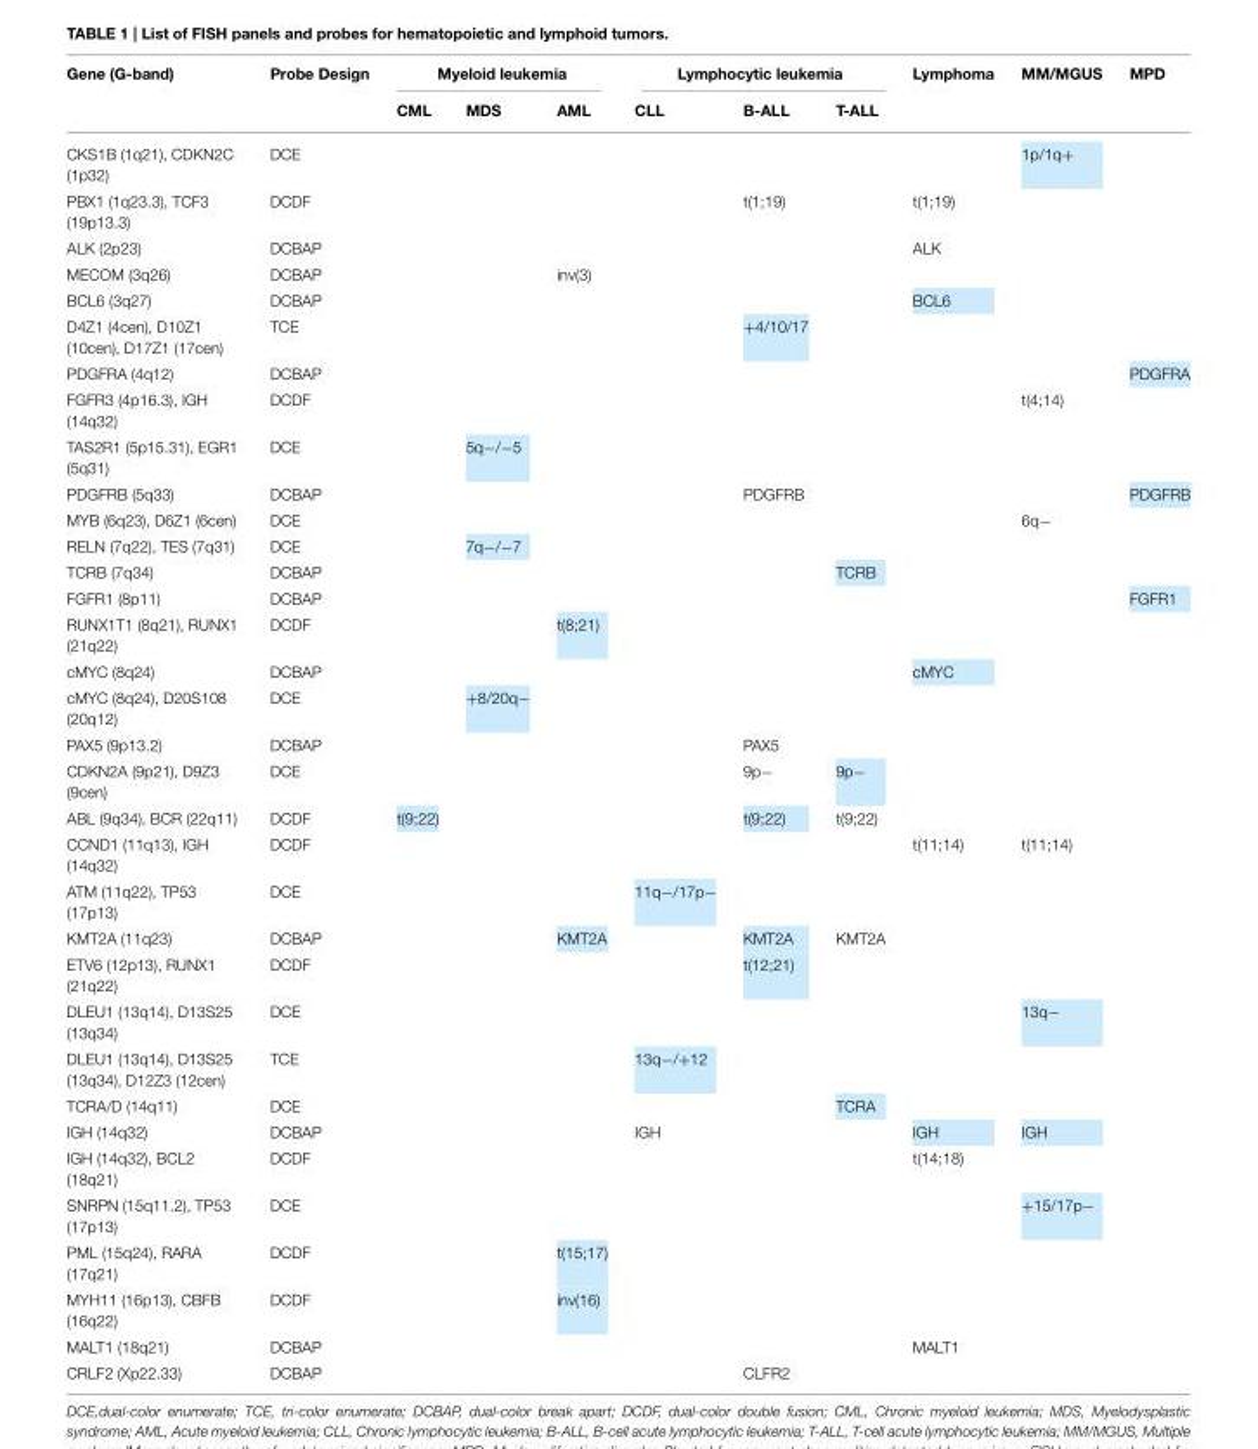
<table><thead><tr><td rowspan="2">Gene (G-band)</td><td rowspan="2">Probe Design</td><td colspan="3">Myeloid leukemia</td><td colspan="3">Lymphocytic leukemia</td><td rowspan="2">Lymphoma</td><td rowspan="2">MM/MGUS</td><td rowspan="2">MPD</td></tr><tr><td>CML</td><td>MDS</td><td>AML</td><td>CLL</td><td>B-ALL</td><td>T-ALL</td></tr></thead><tbody><tr><td>CKS1B (1q21), CDKN2C (1p32)</td><td>DCE</td><td></td><td></td><td></td><td></td><td></td><td></td><td></td><td>1p/1q+</td><td></td></tr><tr><td>PBX1 (1q23.3), TCF3 (19p13.3)</td><td>DCDF</td><td></td><td></td><td></td><td></td><td>t(1;19)</td><td></td><td>t(1;19)</td><td></td><td></td></tr><tr><td>ALK (2p23)</td><td>DCBAP</td><td></td><td></td><td></td><td></td><td></td><td></td><td>ALK</td><td></td><td></td></tr><tr><td>MECOM (3q26)</td><td>DCBAP</td><td></td><td></td><td>inv(3)</td><td></td><td></td><td></td><td></td><td></td><td></td></tr><tr><td>BCL6 (3q27)</td><td>DCBAP</td><td></td><td></td><td></td><td></td><td></td><td></td><td>BCL6</td><td></td><td></td></tr><tr><td>D4Z1 (4cen), D10Z1 (10cen), D17Z1 (17cen)</td><td>TCE</td><td></td><td></td><td></td><td></td><td>+4/10/17</td><td></td><td></td><td></td><td></td></tr><tr><td>PDGFRA (4q12)</td><td>DCBAP</td><td></td><td></td><td></td><td></td><td></td><td></td><td></td><td></td><td>PDGFRA</td></tr><tr><td>FGFR3 (4p16.3), IGH (14q32)</td><td>DCDF</td><td></td><td></td><td></td><td></td><td></td><td></td><td></td><td>t(4;14)</td><td></td></tr><tr><td>TAS2R1 (5p15.31), EGR1 (5q31)</td><td>DCE</td><td></td><td>5q−/−5</td><td></td><td></td><td></td><td></td><td></td><td></td><td></td></tr><tr><td>PDGFRB (5q33)</td><td>DCBAP</td><td></td><td></td><td></td><td></td><td>PDGFRB</td><td></td><td></td><td></td><td>PDGFRB</td></tr><tr><td>MYB (6q23), D6Z1 (6cen)</td><td>DCE</td><td></td><td></td><td></td><td></td><td></td><td></td><td></td><td>6q−</td><td></td></tr><tr><td>RELN (7q22), TES (7q31)</td><td>DCE</td><td></td><td>7q−/−7</td><td></td><td></td><td></td><td></td><td></td><td></td><td></td></tr><tr><td>TCRB (7q34)</td><td>DCBAP</td><td></td><td></td><td></td><td></td><td></td><td>TCRB</td><td></td><td></td><td></td></tr><tr><td>FGFR1 (8p11)</td><td>DCBAP</td><td></td><td></td><td></td><td></td><td></td><td></td><td></td><td></td><td>FGFR1</td></tr><tr><td>RUNX1T1 (8q21), RUNX1 (21q22)</td><td>DCDF</td><td></td><td></td><td>t(8;21)</td><td></td><td></td><td></td><td></td><td></td><td></td></tr><tr><td>cMYC (8q24)</td><td>DCBAP</td><td></td><td></td><td></td><td></td><td></td><td></td><td>cMYC</td><td></td><td></td></tr><tr><td>cMYC (8q24), D20S108 (20q12)</td><td>DCE</td><td></td><td>+8/20q−</td><td></td><td></td><td></td><td></td><td></td><td></td><td></td></tr><tr><td>PAX5 (9p13.2)</td><td>DCBAP</td><td></td><td></td><td></td><td></td><td>PAX5</td><td></td><td></td><td></td><td></td></tr><tr><td>CDKN2A (9p21), D9Z3 (9cen)</td><td>DCE</td><td></td><td></td><td></td><td></td><td>9p−</td><td>9p−</td><td></td><td></td><td></td></tr><tr><td>ABL (9q34), BCR (22q11)</td><td>DCDF</td><td>t(9;22)</td><td></td><td></td><td></td><td>t(9;22)</td><td>t(9;22)</td><td></td><td></td><td></td></tr><tr><td>CCND1 (11q13), IGH (14q32)</td><td>DCDF</td><td></td><td></td><td></td><td></td><td></td><td></td><td>t(11;14)</td><td>t(11;14)</td><td></td></tr><tr><td>ATM (11q22), TP53 (17p13)</td><td>DCE</td><td></td><td></td><td></td><td>11q−/17p−</td><td></td><td></td><td></td><td></td><td></td></tr><tr><td>KMT2A (11q23)</td><td>DCBAP</td><td></td><td></td><td>KMT2A</td><td></td><td>KMT2A</td><td>KMT2A</td><td></td><td></td><td></td></tr><tr><td>ETV6 (12p13), RUNX1 (21q22)</td><td>DCDF</td><td></td><td></td><td></td><td></td><td>t(12;21)</td><td></td><td></td><td></td><td></td></tr><tr><td>DLEU1 (13q14), D13S25 (13q34)</td><td>DCE</td><td></td><td></td><td></td><td></td><td></td><td></td><td></td><td>13q−</td><td></td></tr><tr><td>DLEU1 (13q14), D13S25 (13q34), D12Z3 (12cen)</td><td>TCE</td><td></td><td></td><td></td><td>13q−/+12</td><td></td><td></td><td></td><td></td><td></td></tr><tr><td>TCRA/D (14q11)</td><td>DCE</td><td></td><td></td><td></td><td></td><td></td><td>TCRA</td><td></td><td></td><td></td></tr><tr><td>IGH (14q32)</td><td>DCBAP</td><td></td><td></td><td></td><td>IGH</td><td></td><td></td><td>IGH</td><td>IGH</td><td></td></tr><tr><td>IGH (14q32), BCL2 (18q21)</td><td>DCDF</td><td></td><td></td><td></td><td></td><td></td><td></td><td>t(14;18)</td><td></td><td></td></tr><tr><td>SNRPN (15q11.2), TP53 (17p13)</td><td>DCE</td><td></td><td></td><td></td><td></td><td></td><td></td><td></td><td>+15/17p−</td><td></td></tr><tr><td>PML (15q24), RARA (17q21)</td><td>DCDF</td><td></td><td></td><td>t(15;17)</td><td></td><td></td><td></td><td></td><td></td><td></td></tr><tr><td>MYH11 (16p13), CBFB (16q22)</td><td>DCDF</td><td></td><td></td><td>inv(16)</td><td></td><td></td><td></td><td></td><td></td><td></td></tr><tr><td>MALT1 (18q21)</td><td>DCBAP</td><td></td><td></td><td></td><td></td><td></td><td></td><td>MALT1</td><td></td><td></td></tr><tr><td>CRLF2 (Xp22.33)</td><td>DCBAP</td><td></td><td></td><td></td><td></td><td>CLFR2</td><td></td><td></td><td></td><td></td></tr></tbody></table>